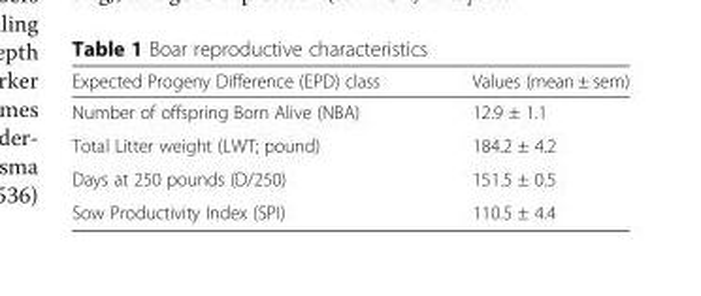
<table><thead><tr><td>Expected Progeny Difference (EPD) class</td><td>Values (mean ± sem)</td></tr></thead><tbody><tr><td>Number of offspring Born Alive (NBA)</td><td>12.9 ± 1.1</td></tr><tr><td>Total Litter weight (LWT; pound)</td><td>184.2 ± 4.2</td></tr><tr><td>Days at 250 pounds (D/250)</td><td>151.5 ± 0.5</td></tr><tr><td>Sow Productivity Index (SPI)</td><td>110.5 ± 4.4</td></tr></tbody></table>